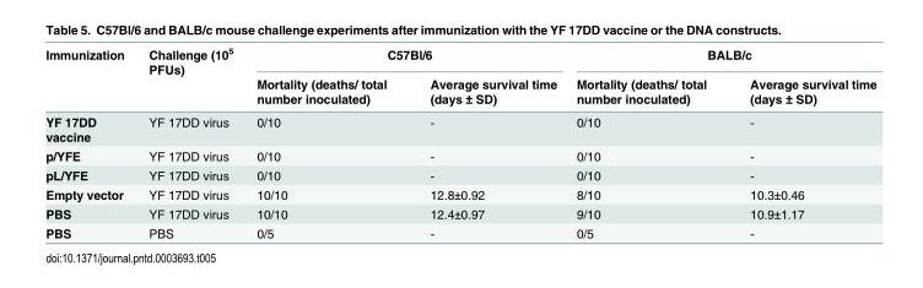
<table><thead><tr><td rowspan="2">Immunization</td><td rowspan="2">Challenge (10<sup>5</sup> PFUs)</td><td colspan="2">C57Bl/6</td><td colspan="2">BALB/c</td></tr><tr><td>Mortality (deaths/ total number inoculated)</td><td>Average survival time (days ± SD)</td><td>Mortality (deaths/ total number inoculated)</td><td>Average survival time (days ± SD)</td></tr></thead><tbody><tr><td>YF 17DD vaccine</td><td>YF 17DD virus</td><td>0/10</td><td>-</td><td>0/10</td><td>-</td></tr><tr><td>p/YFE</td><td>YF 17DD virus</td><td>0/10</td><td>-</td><td>0/10</td><td>-</td></tr><tr><td>pL/YFE</td><td>YF 17DD virus</td><td>0/10</td><td>-</td><td>0/10</td><td>-</td></tr><tr><td>Empty vector</td><td>YF 17DD virus</td><td>10/10</td><td>12.8±0.92</td><td>8/10</td><td>10.3±0.46</td></tr><tr><td>PBS</td><td>YF 17DD virus</td><td>10/10</td><td>12.4±0.97</td><td>9/10</td><td>10.9±1.17</td></tr><tr><td>PBS</td><td>PBS</td><td>0/5</td><td>-</td><td>0/5</td><td>-</td></tr></tbody></table>